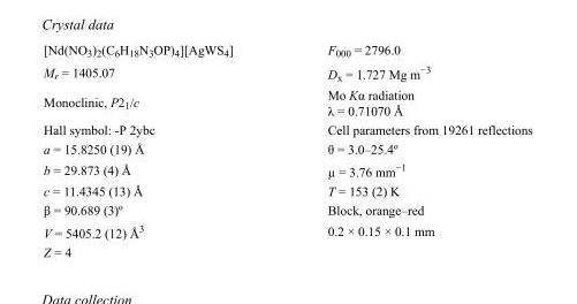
<table><tbody><tr><td>[Nd(NO<sub>3</sub>)<sub>2</sub>(C<sub>6</sub>H<sub>18</sub>N<sub>3</sub>OP)<sub>4</sub>][AgWS<sub>4</sub>]</td><td>F<sub>000</sub> = 2796.0</td></tr><tr><td>M<sub>r</sub> = 1405.07</td><td>D<sub>x</sub> = 1.727 Mg m<sup>−3</sup></td></tr><tr><td>Monoclinic, P2<sub>1</sub>/c</td><td>Mo Kα radiation λ = 0.71070 Å</td></tr><tr><td>Hall symbol: -P 2ybc</td><td>Cell parameters from 19261 reflections</td></tr><tr><td>a = 15.8250 (19) Å</td><td>θ = 3.0–25.4º</td></tr><tr><td>b = 29.873 (4) Å</td><td>µ = 3.76 mm<sup>−1</sup></td></tr><tr><td>c = 11.4345 (13) Å</td><td>T = 153 (2) K</td></tr><tr><td>β = 90.689 (3)º</td><td>Block, orange–red</td></tr><tr><td>V = 5405.2 (12) Å<sup>3</sup></td><td>0.2 × 0.15 × 0.1 mm</td></tr><tr><td>Z = 4</td><td></td></tr></tbody></table>